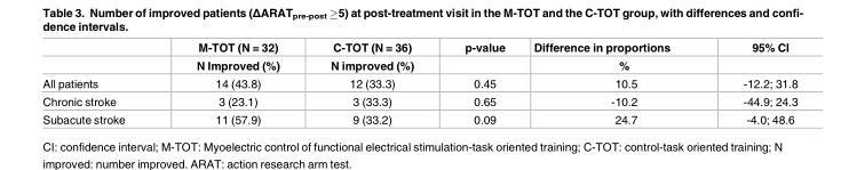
<table><thead><tr><td rowspan="2"></td><td rowspan="2">M-TOT (N = 32) N Improved (%)</td><td rowspan="2">C-TOT (N = 36) N improved (%)</td><td rowspan="2">p-value</td><td rowspan="2">Difference in proportions %</td><td rowspan="2">95% CI</td></tr><tr></tr></thead><tbody><tr><td>All patients</td><td>14 (43.8)</td><td>12 (33.3)</td><td>0.45</td><td>10.5</td><td>-12.2; 31.8</td></tr><tr><td>Chronic stroke</td><td>3 (23.1)</td><td>3 (33.3)</td><td>0.65</td><td>-10.2</td><td>-44.9; 24.3</td></tr><tr><td>Subacute stroke</td><td>11 (57.9)</td><td>9 (33.2)</td><td>0.09</td><td>24.7</td><td>-4.0; 48.6</td></tr></tbody></table>